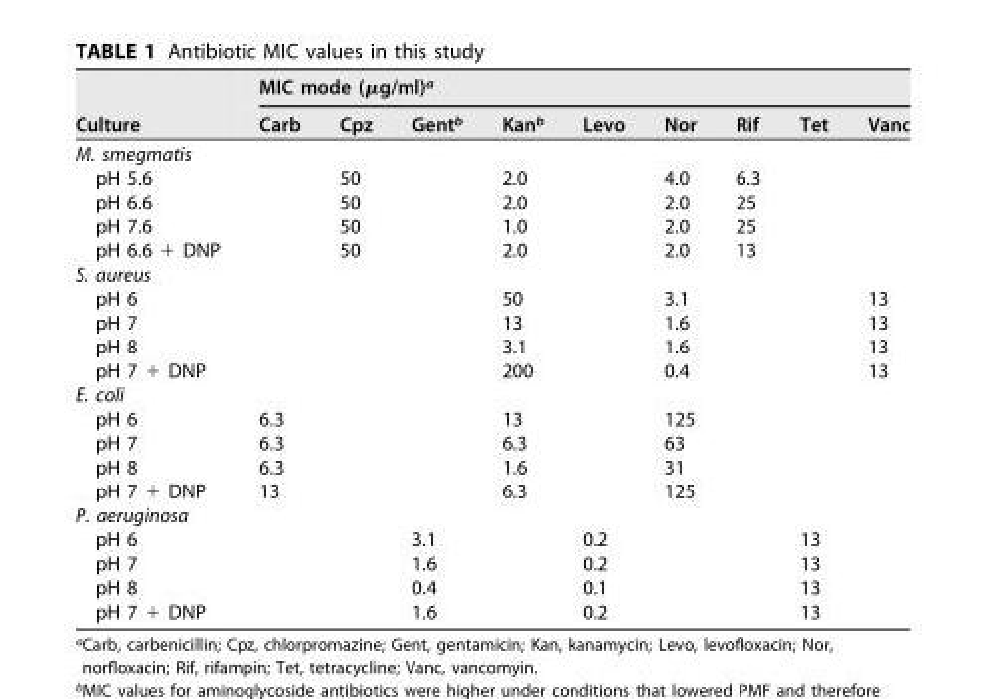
<table><thead><tr><td rowspan="2">Culture</td><td colspan="9">MIC mode (µg/ml)<sup>a</sup></td></tr><tr><td>Carb</td><td>Cpz</td><td>Gent<sup>b</sup></td><td>Kan<sup>b</sup></td><td>Levo</td><td>Nor</td><td>Rif</td><td>Tet</td><td>Vanc</td></tr></thead><tbody><tr><td colspan="10">M. smegmatis</td></tr><tr><td>pH 5.6</td><td></td><td>50</td><td></td><td>2.0</td><td></td><td>4.0</td><td>6.3</td><td></td><td></td></tr><tr><td>pH 6.6</td><td></td><td>50</td><td></td><td>2.0</td><td></td><td>2.0</td><td>25</td><td></td><td></td></tr><tr><td>pH 7.6</td><td></td><td>50</td><td></td><td>1.0</td><td></td><td>2.0</td><td>25</td><td></td><td></td></tr><tr><td>pH 6.6 + DNP</td><td></td><td>50</td><td></td><td>2.0</td><td></td><td>2.0</td><td>13</td><td></td><td></td></tr><tr><td colspan="10">S. aureus</td></tr><tr><td>pH 6</td><td></td><td></td><td></td><td>50</td><td></td><td>3.1</td><td></td><td></td><td>13</td></tr><tr><td>pH 7</td><td></td><td></td><td></td><td>13</td><td></td><td>1.6</td><td></td><td></td><td>13</td></tr><tr><td>pH 8</td><td></td><td></td><td></td><td>3.1</td><td></td><td>1.6</td><td></td><td></td><td>13</td></tr><tr><td>pH 7 + DNP</td><td></td><td></td><td></td><td>200</td><td></td><td>0.4</td><td></td><td></td><td>13</td></tr><tr><td colspan="10">E. coli</td></tr><tr><td>pH 6</td><td>6.3</td><td></td><td></td><td>13</td><td></td><td>125</td><td></td><td></td><td></td></tr><tr><td>pH 7</td><td>6.3</td><td></td><td></td><td>6.3</td><td></td><td>63</td><td></td><td></td><td></td></tr><tr><td>pH 8</td><td>6.3</td><td></td><td></td><td>1.6</td><td></td><td>31</td><td></td><td></td><td></td></tr><tr><td>pH 7 + DNP</td><td>13</td><td></td><td></td><td>6.3</td><td></td><td>125</td><td></td><td></td><td></td></tr><tr><td colspan="10">P. aeruginosa</td></tr><tr><td>pH 6</td><td></td><td></td><td>3.1</td><td></td><td>0.2</td><td></td><td></td><td>13</td><td></td></tr><tr><td>pH 7</td><td></td><td></td><td>1.6</td><td></td><td>0.2</td><td></td><td></td><td>13</td><td></td></tr><tr><td>pH 8</td><td></td><td></td><td>0.4</td><td></td><td>0.1</td><td></td><td></td><td>13</td><td></td></tr><tr><td>pH 7 + DNP</td><td></td><td></td><td>1.6</td><td></td><td>0.2</td><td></td><td></td><td>13</td><td></td></tr></tbody></table>